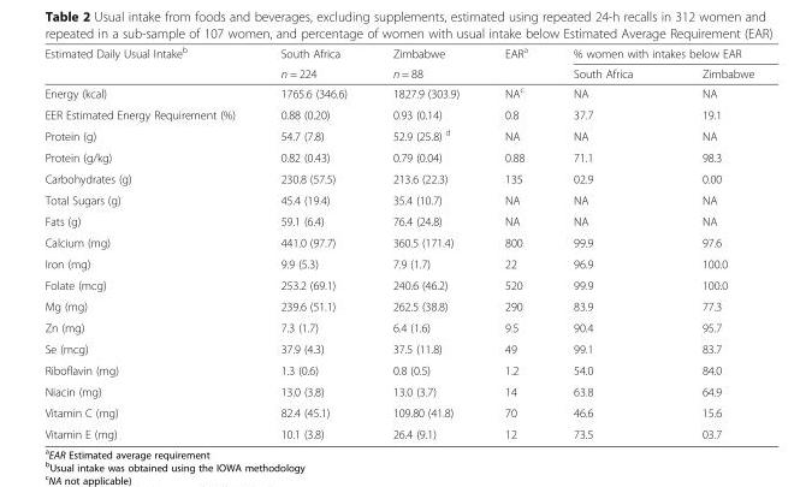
<table><thead><tr><td rowspan="2">Estimated Daily Usual Intake<sup>b</sup></td><td rowspan="2">South Africa n = 224</td><td rowspan="2">Zimbabwe n = 88</td><td rowspan="2">EAR<sup>a</sup></td><td colspan="2">% women with intakes below EAR</td></tr><tr><td>South Africa</td><td>Zimbabwe</td></tr></thead><tbody><tr><td>Energy (kcal)</td><td>1765.6 (346.6)</td><td>1827.9 (303.9)</td><td>NA<sup>c</sup></td><td>NA</td><td>NA</td></tr><tr><td>EER Estimated Energy Requirement (%)</td><td>0.88 (0.20)</td><td>0.93 (0.14)</td><td>0.8</td><td>37.7</td><td>19.1</td></tr><tr><td>Protein (g)</td><td>54.7 (7.8)</td><td>52.9 (25.8) <sup>d</sup></td><td>NA</td><td>NA</td><td>NA</td></tr><tr><td>Protein (g/kg)</td><td>0.82 (0.43)</td><td>0.79 (0.04)</td><td>0.88</td><td>71.1</td><td>98.3</td></tr><tr><td>Carbohydrates (g)</td><td>230.8 (57.5)</td><td>213.6 (22.3)</td><td>135</td><td>02.9</td><td>0.00</td></tr><tr><td>Total Sugars (g)</td><td>45.4 (19.4)</td><td>35.4 (10.7)</td><td>NA</td><td>NA</td><td>NA</td></tr><tr><td>Fats (g)</td><td>59.1 (6.4)</td><td>76.4 (24.8)</td><td>NA</td><td>NA</td><td>NA</td></tr><tr><td>Calcium (mg)</td><td>441.0 (97.7)</td><td>360.5 (171.4)</td><td>800</td><td>99.9</td><td>97.6</td></tr><tr><td>Iron (mg)</td><td>9.9 (5.3)</td><td>7.9 (1.7)</td><td>22</td><td>96.9</td><td>100.0</td></tr><tr><td>Folate (mcg)</td><td>253.2 (69.1)</td><td>240.6 (46.2)</td><td>520</td><td>99.9</td><td>100.0</td></tr><tr><td>Mg (mg)</td><td>239.6 (51.1)</td><td>262.5 (38.8)</td><td>290</td><td>83.9</td><td>77.3</td></tr><tr><td>Zn (mg)</td><td>7.3 (1.7)</td><td>6.4 (1.6)</td><td>9.5</td><td>90.4</td><td>95.7</td></tr><tr><td>Se (mcg)</td><td>37.9 (4.3)</td><td>37.5 (11.8)</td><td>49</td><td>99.1</td><td>83.7</td></tr><tr><td>Riboflavin (mg)</td><td>1.3 (0.6)</td><td>0.8 (0.5)</td><td>1.2</td><td>54.0</td><td>84.0</td></tr><tr><td>Niacin (mg)</td><td>13.0 (3.8)</td><td>13.0 (3.7)</td><td>14</td><td>63.8</td><td>64.9</td></tr><tr><td>Vitamin C (mg)</td><td>82.4 (45.1)</td><td>109.80 (41.8)</td><td>70</td><td>46.6</td><td>15.6</td></tr><tr><td>Vitamin E (mg)</td><td>10.1 (3.8)</td><td>26.4 (9.1)</td><td>12</td><td>73.5</td><td>03.7</td></tr></tbody></table>